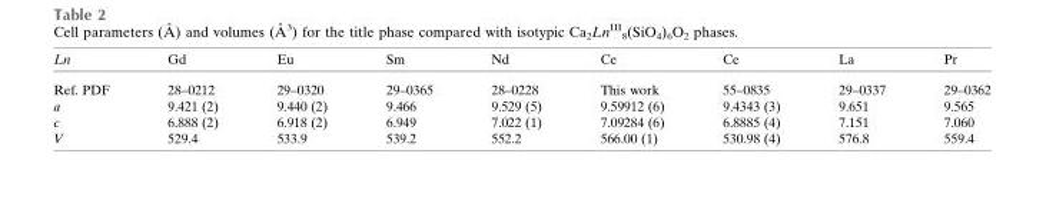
<table><thead><tr><td>Ln</td><td>Gd</td><td>Eu</td><td>Sm</td><td>Nd</td><td>Ce</td><td>Ce</td><td>La</td><td>Pr</td></tr></thead><tbody><tr><td>Ref. PDF</td><td>28–0212</td><td>29–0320</td><td>29–0365</td><td>28–0228</td><td>This work</td><td>55–0835</td><td>29–0337</td><td>29–0362</td></tr><tr><td>a</td><td>9.421 (2)</td><td>9.440 (2)</td><td>9.466</td><td>9.529 (5)</td><td>9.59912 (6)</td><td>9.4343 (3)</td><td>9.651</td><td>9.565</td></tr><tr><td>c</td><td>6.888 (2)</td><td>6.918 (2)</td><td>6.949</td><td>7.022 (1)</td><td>7.09284 (6)</td><td>6.8885 (4)</td><td>7.151</td><td>7.060</td></tr><tr><td>V</td><td>529.4</td><td>533.9</td><td>539.2</td><td>552.2</td><td>566.00 (1)</td><td>530.98 (4)</td><td>576.8</td><td>559.4</td></tr></tbody></table>